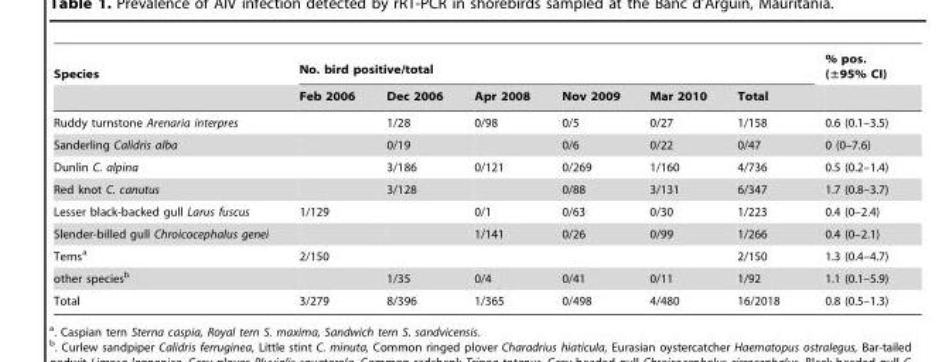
<table><thead><tr><td rowspan="2">Species</td><td colspan="6">No. bird positive/total</td><td rowspan="2">% pos. (±95% CI)</td></tr><tr><td>Feb 2006</td><td>Dec 2006</td><td>Apr 2008</td><td>Nov 2009</td><td>Mar 2010</td><td>Total</td></tr></thead><tbody><tr><td>Ruddy turnstone Arenaria interpres</td><td></td><td>1/28</td><td>0/98</td><td>0/5</td><td>0/27</td><td>1/158</td><td>0.6 (0.1–3.5)</td></tr><tr><td>Sanderling Calidris alba</td><td></td><td>0/19</td><td></td><td>0/6</td><td>0/22</td><td>0/47</td><td>0 (0–7.6)</td></tr><tr><td>Dunlin C. alpina</td><td></td><td>3/186</td><td>0/121</td><td>0/269</td><td>1/160</td><td>4/736</td><td>0.5 (0.2–1.4)</td></tr><tr><td>Red knot C. canutus</td><td></td><td>3/128</td><td></td><td>0/88</td><td>3/131</td><td>6/347</td><td>1.7 (0.8–3.7)</td></tr><tr><td>Lesser black-backed gull Larus fuscus</td><td>1/129</td><td></td><td>0/1</td><td>0/63</td><td>0/30</td><td>1/223</td><td>0.4 (0–2.4)</td></tr><tr><td>Slender-billed gull Chroicocephalus genei</td><td></td><td></td><td>1/141</td><td>0/26</td><td>0/99</td><td>1/266</td><td>0.4 (0–2.1)</td></tr><tr><td>Terns<sup>a</sup></td><td>2/150</td><td></td><td></td><td></td><td></td><td>2/150</td><td>1.3 (0.4–4.7)</td></tr><tr><td>other species<sup>b</sup></td><td></td><td>1/35</td><td>0/4</td><td>0/41</td><td>0/11</td><td>1/92</td><td>1.1 (0.1–5.9)</td></tr><tr><td>Total</td><td>3/279</td><td>8/396</td><td>1/365</td><td>0/498</td><td>4/480</td><td>16/2018</td><td>0.8 (0.5–1.3)</td></tr></tbody></table>